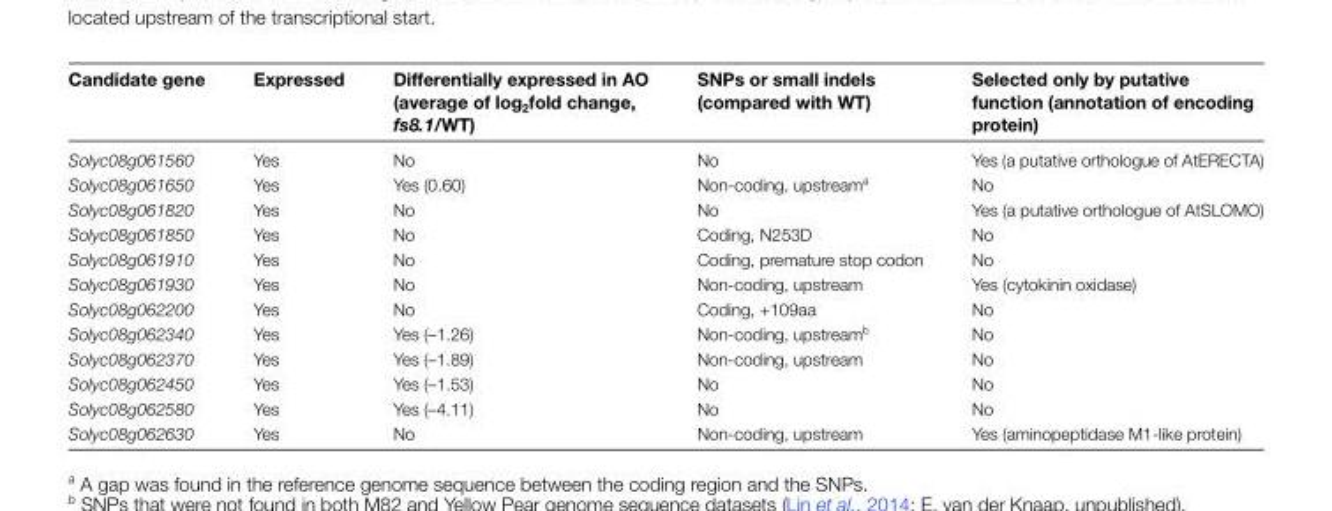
<table><thead><tr><td>Candidate gene</td><td>Expressed</td><td>Differentially expressed in AO (average of log<sub>2</sub>fold change, fs8.1/WT)</td><td>SNPs or small indels (compared with WT)</td><td>Selected only by putative function (annotation of encoding protein)</td></tr></thead><tbody><tr><td>Solyc08g061560</td><td>Yes</td><td>No</td><td>No</td><td>Yes (a putative orthologue of AtERECTA)</td></tr><tr><td>Solyc08g061650</td><td>Yes</td><td>Yes (0.60)</td><td>Non-coding, upstream<sup>a</sup></td><td>No</td></tr><tr><td>Solyc08g061820</td><td>Yes</td><td>No</td><td>No</td><td>Yes (a putative orthologue of AtSLOMO)</td></tr><tr><td>Solyc08g061850</td><td>Yes</td><td>No</td><td>Coding, N253D</td><td>No</td></tr><tr><td>Solyc08g061910</td><td>Yes</td><td>No</td><td>Coding, premature stop codon</td><td>No</td></tr><tr><td>Solyc08g061930</td><td>Yes</td><td>No</td><td>Non-coding, upstream</td><td>Yes (cytokinin oxidase)</td></tr><tr><td>Solyc08g062200</td><td>Yes</td><td>No</td><td>Coding, +109aa</td><td>No</td></tr><tr><td>Solyc08g062340</td><td>Yes</td><td>Yes (–1.26)</td><td>Non-coding, upstream<sup>b</sup></td><td>No</td></tr><tr><td>Solyc08g062370</td><td>Yes</td><td>Yes (–1.89)</td><td>Non-coding, upstream</td><td>No</td></tr><tr><td>Solyc08g062450</td><td>Yes</td><td>Yes (–1.53)</td><td>No</td><td>No</td></tr><tr><td>Solyc08g062580</td><td>Yes</td><td>Yes (–4.11)</td><td>No</td><td>No</td></tr><tr><td>Solyc08g062630</td><td>Yes</td><td>No</td><td>Non-coding, upstream</td><td>Yes (aminopeptidase M1-like protein)</td></tr></tbody></table>